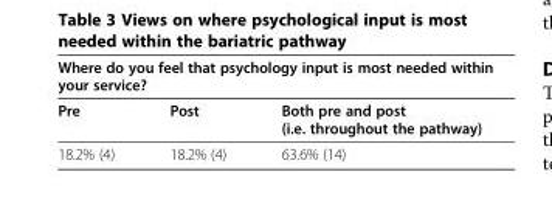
<table><thead><tr><td colspan="3">Where do you feel that psychology input is most needed within your service?</td></tr><tr><td>Pre</td><td>Post</td><td>Both pre and post (i.e. throughout the pathway)</td></tr></thead><tbody><tr><td>18.2% (4)</td><td>18.2% (4)</td><td>63.6% (14)</td></tr></tbody></table>